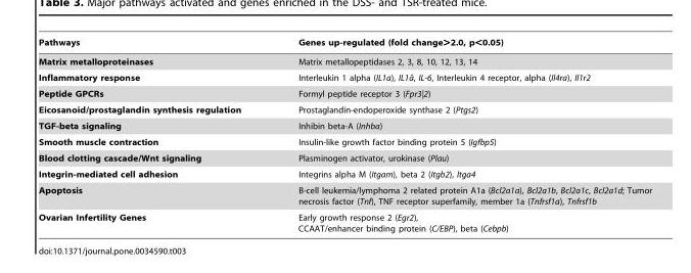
<table><thead><tr><td>Pathways</td><td>Genes up-regulated (fold change&gt;2.0, p&lt;0.05)</td></tr></thead><tbody><tr><td>Matrix metalloproteinases</td><td>Matrix metallopeptidases 2, 3, 8, 10, 12, 13, 14</td></tr><tr><td>Inflammatory response</td><td>Interleukin 1 alpha (IL1a), IL1aˆ, IL-6, Interleukin 4 receptor, alpha (Il4ra), Il1r2</td></tr><tr><td>Peptide GPCRs</td><td>Formyl peptide receptor 3 (Fpr3|2)</td></tr><tr><td>Eicosanoid/prostaglandin synthesis regulation</td><td>Prostaglandin-endoperoxide synthase 2 (Ptgs2)</td></tr><tr><td>TGF-beta signaling</td><td>Inhibin beta-A (Inhba)</td></tr><tr><td>Smooth muscle contraction</td><td>Insulin-like growth factor binding protein 5 (Igfbp5)</td></tr><tr><td>Blood clotting cascade/Wnt signaling</td><td>Plasminogen activator, urokinase (Plau)</td></tr><tr><td>Integrin-mediated cell adhesion</td><td>Integrins alpha M (Itgam), beta 2 (Itgb2), Itga4</td></tr><tr><td>Apoptosis</td><td>B-cell leukemia/lymphoma 2 related protein A1a (Bcl2a1a), Bcl2a1b, Bcl2a1c, Bcl2a1d; Tumor necrosis factor (Tnf), TNF receptor superfamily, member 1a (Tnfrsf1a), Tnfrsf1b</td></tr><tr><td>Ovarian Infertility Genes</td><td>Early growth response 2 (Egr2), CCAAT/enhancer binding protein (C/EBP), beta (Cebpb)</td></tr></tbody></table>